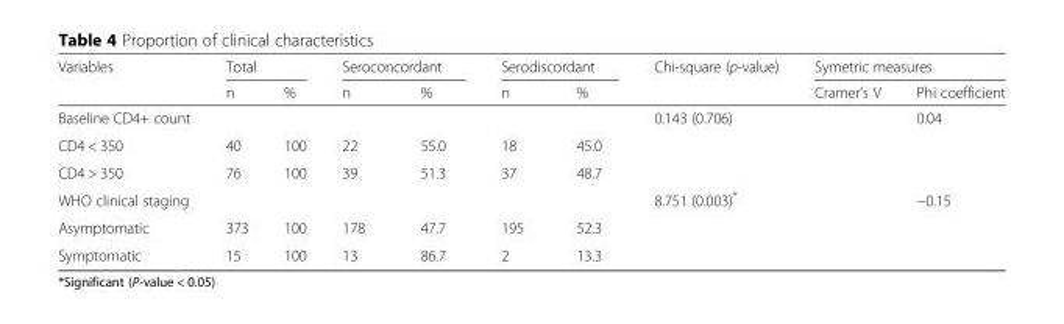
<table><thead><tr><td rowspan="2">Variables</td><td colspan="2">Total</td><td colspan="2">Seroconcordant</td><td colspan="2">Serodiscordant</td><td rowspan="2">Chi-square (p-value)</td><td colspan="2">Symetric measures</td></tr><tr><td>n</td><td>%</td><td>n</td><td>%</td><td>n</td><td>%</td><td>Cramer’s V</td><td>Phi coefficient</td></tr></thead><tbody><tr><td>Baseline CD4+ count</td><td></td><td></td><td></td><td></td><td></td><td></td><td>0.143 (0.706)</td><td></td><td>0.04</td></tr><tr><td>CD4 &lt; 350</td><td>40</td><td>100</td><td>22</td><td>55.0</td><td>18</td><td>45.0</td><td></td><td></td><td></td></tr><tr><td>CD4 &gt; 350</td><td>76</td><td>100</td><td>39</td><td>51.3</td><td>37</td><td>48.7</td><td></td><td></td><td></td></tr><tr><td>WHO clinical staging</td><td></td><td></td><td></td><td></td><td></td><td></td><td>8.751 (0.003)*</td><td></td><td>−0.15</td></tr><tr><td>Asymptomatic</td><td>373</td><td>100</td><td>178</td><td>47.7</td><td>195</td><td>52.3</td><td></td><td></td><td></td></tr><tr><td>Symptomatic</td><td>15</td><td>100</td><td>13</td><td>86.7</td><td>2</td><td>13.3</td><td></td><td></td><td></td></tr></tbody></table>